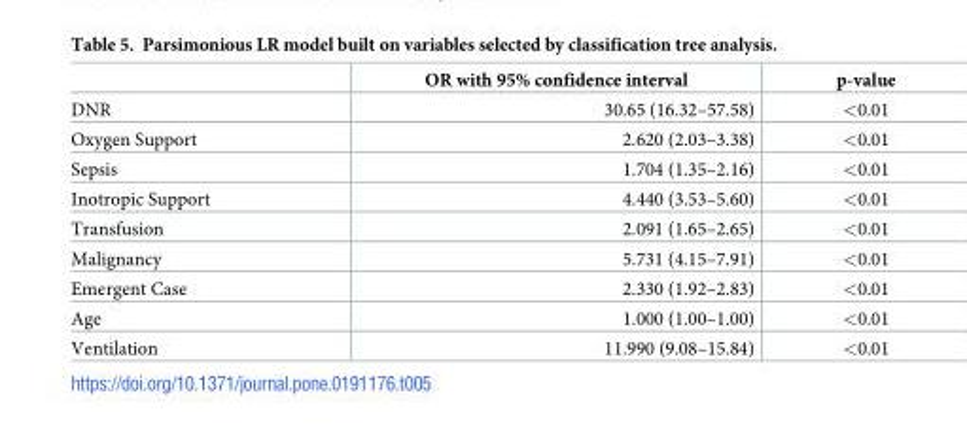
<table><thead><tr><td></td><td>OR with 95% confidence interval</td><td>p-value</td></tr></thead><tbody><tr><td>DNR</td><td>30.65 (16.32–57.58)</td><td>&lt;0.01</td></tr><tr><td>Oxygen Support</td><td>2.620 (2.03–3.38)</td><td>&lt;0.01</td></tr><tr><td>Sepsis</td><td>1.704 (1.35–2.16)</td><td>&lt;0.01</td></tr><tr><td>Inotropic Support</td><td>4.440 (3.53–5.60)</td><td>&lt;0.01</td></tr><tr><td>Transfusion</td><td>2.091 (1.65–2.65)</td><td>&lt;0.01</td></tr><tr><td>Malignancy</td><td>5.731 (4.15–7.91)</td><td>&lt;0.01</td></tr><tr><td>Emergent Case</td><td>2.330 (1.92–2.83)</td><td>&lt;0.01</td></tr><tr><td>Age</td><td>1.000 (1.00–1.00)</td><td>&lt;0.01</td></tr><tr><td>Ventilation</td><td>11.990 (9.08–15.84)</td><td>&lt;0.01</td></tr></tbody></table>